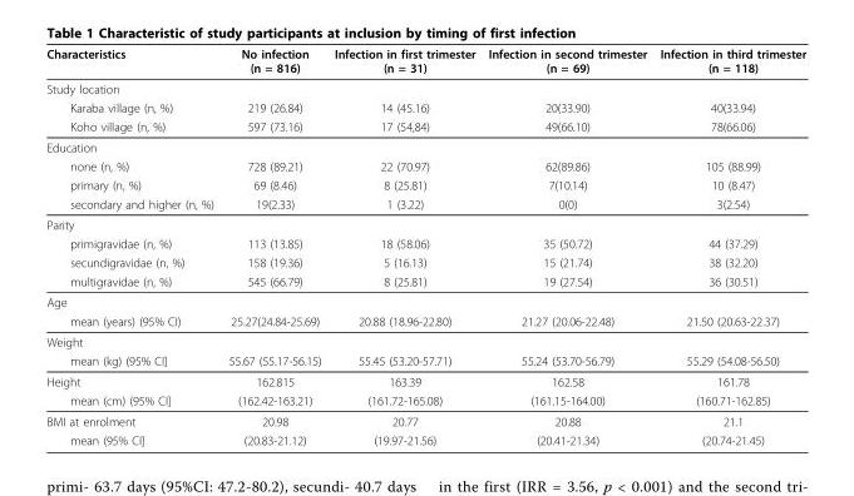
<table><thead><tr><td>Characteristics</td><td>No infection (n = 816)</td><td>Infection in first trimester (n = 31)</td><td>Infection in second trimester (n = 69)</td><td>Infection in third trimester (n = 118)</td></tr></thead><tbody><tr><td colspan="5">Study location</td></tr><tr><td>Karaba village (n, %)</td><td>219 (26.84)</td><td>14 (45.16)</td><td>20(33.90)</td><td>40(33.94)</td></tr><tr><td>Koho village (n, %)</td><td>597 (73.16)</td><td>17 (54,84)</td><td>49(66.10)</td><td>78(66.06)</td></tr><tr><td colspan="5">Education</td></tr><tr><td>none (n, %)</td><td>728 (89.21)</td><td>22 (70.97)</td><td>62(89.86)</td><td>105 (88.99)</td></tr><tr><td>primary (n, %)</td><td>69 (8.46)</td><td>8 (25.81)</td><td>7(10.14)</td><td>10 (8.47)</td></tr><tr><td>secondary and higher (n, %)</td><td>19(2.33)</td><td>1 (3.22)</td><td>0(0)</td><td>3(2.54)</td></tr><tr><td colspan="5">Parity</td></tr><tr><td>primigravidae (n, %)</td><td>113 (13.85)</td><td>18 (58.06)</td><td>35 (50.72)</td><td>44 (37.29)</td></tr><tr><td>secundigravidae (n, %)</td><td>158 (19.36)</td><td>5 (16.13)</td><td>15 (21.74)</td><td>38 (32.20)</td></tr><tr><td>multigravidae (n, %)</td><td>545 (66.79)</td><td>8 (25.81)</td><td>19 (27.54)</td><td>36 (30.51)</td></tr><tr><td colspan="5">Age</td></tr><tr><td>mean (years) (95% CI)</td><td>25.27(24.84-25.69)</td><td>20.88 (18.96-22.80)</td><td>21.27 (20.06-22.48)</td><td>21.50 (20.63-22.37)</td></tr><tr><td colspan="5">Weight</td></tr><tr><td>mean (kg) (95% CI]</td><td>55.67 (55.17-56.15)</td><td>55.45 (53.20-57.71)</td><td>55.24 (53.70-56.79)</td><td>55.29 (54.08-56.50)</td></tr><tr><td>Height</td><td>162.815</td><td>163.39</td><td>162.58</td><td>161.78</td></tr><tr><td>mean (cm) (95% CI]</td><td>(162.42-163.21)</td><td>(161.72-165.08)</td><td>(161.15-164.00)</td><td>(160.71-162.85)</td></tr><tr><td>BMI at enrolment</td><td>20.98</td><td>20.77</td><td>20.88</td><td>21.1</td></tr><tr><td>mean (95% CI]</td><td>(20.83-21.12)</td><td>(19.97-21.56)</td><td>(20.41-21.34)</td><td>(20.74-21.45)</td></tr></tbody></table>